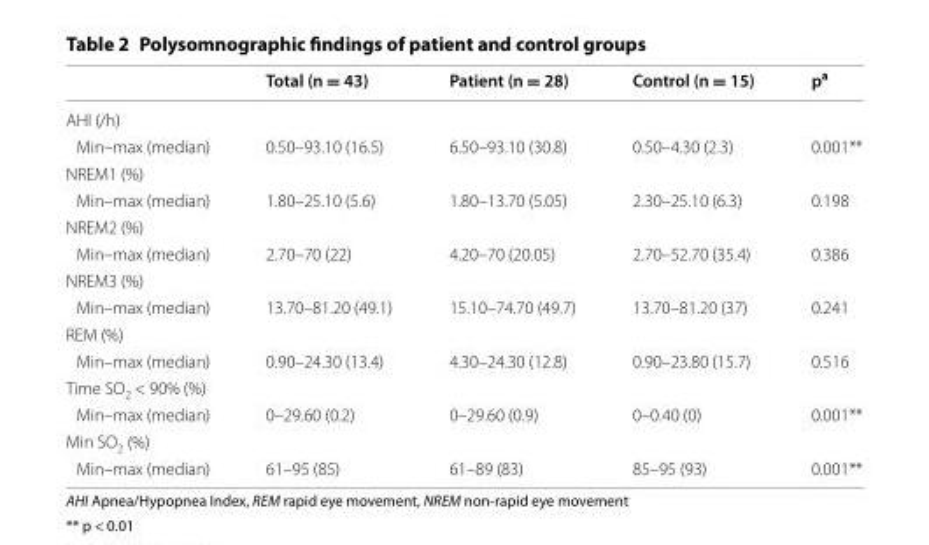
<table><thead><tr><td></td><td>Total (n = 43)</td><td>Patient (n = 28)</td><td>Control (n = 15)</td><td>p<sup>a</sup></td></tr></thead><tbody><tr><td colspan="5">AHI (/h)</td></tr><tr><td>Min–max (median)</td><td>0.50–93.10 (16.5)</td><td>6.50–93.10 (30.8)</td><td>0.50–4.30 (2.3)</td><td>0.001**</td></tr><tr><td colspan="5">NREM1 (%)</td></tr><tr><td>Min–max (median)</td><td>1.80–25.10 (5.6)</td><td>1.80–13.70 (5.05)</td><td>2.30–25.10 (6.3)</td><td>0.198</td></tr><tr><td colspan="5">NREM2 (%)</td></tr><tr><td>Min–max (median)</td><td>2.70–70 (22)</td><td>4.20–70 (20.05)</td><td>2.70–52.70 (35.4)</td><td>0.386</td></tr><tr><td colspan="5">NREM3 (%)</td></tr><tr><td>Min–max (median)</td><td>13.70–81.20 (49.1)</td><td>15.10–74.70 (49.7)</td><td>13.70–81.20 (37)</td><td>0.241</td></tr><tr><td colspan="5">REM (%)</td></tr><tr><td>Min–max (median)</td><td>0.90–24.30 (13.4)</td><td>4.30–24.30 (12.8)</td><td>0.90–23.80 (15.7)</td><td>0.516</td></tr><tr><td colspan="5">Time SO<sub>2</sub> &lt; 90% (%)</td></tr><tr><td>Min–max (median)</td><td>0–29.60 (0.2)</td><td>0–29.60 (0.9)</td><td>0–0.40 (0)</td><td>0.001**</td></tr><tr><td colspan="5">Min SO<sub>2</sub> (%)</td></tr><tr><td>Min–max (median)</td><td>61–95 (85)</td><td>61–89 (83)</td><td>85–95 (93)</td><td>0.001**</td></tr></tbody></table>